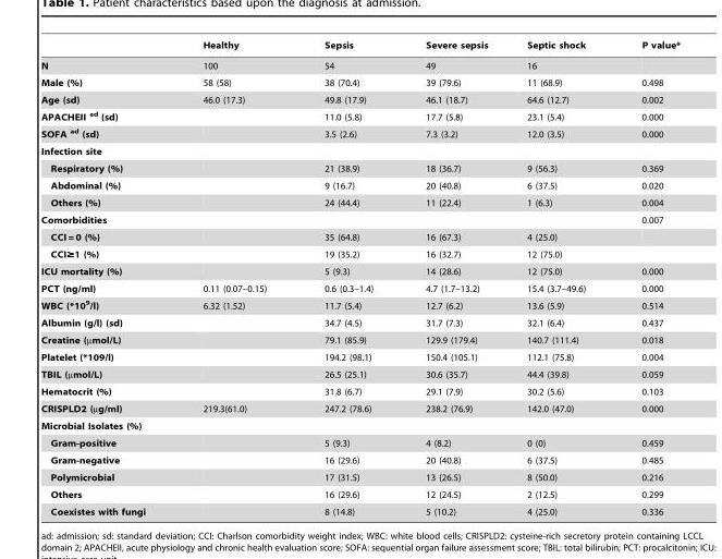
<table><thead><tr><td></td><td>Healthy</td><td>Sepsis</td><td>Severe sepsis</td><td>Septic shock</td><td>P value*</td></tr></thead><tbody><tr><td>N</td><td>100</td><td>54</td><td>49</td><td>16</td><td></td></tr><tr><td>Male (%)</td><td>58 (58)</td><td>38 (70.4)</td><td>39 (79.6)</td><td>11 (68.9)</td><td>0.498</td></tr><tr><td>Age (sd)</td><td>46.0 (17.3)</td><td>49.8 (17.9)</td><td>46.1 (18.7)</td><td>64.6 (12.7)</td><td>0.002</td></tr><tr><td>APACHEII <sup>ad</sup> (sd)</td><td></td><td>11.0 (5.8)</td><td>17.7 (5.8)</td><td>23.1 (5.4)</td><td>0.000</td></tr><tr><td>SOFA <sup>ad</sup> (sd)</td><td></td><td>3.5 (2.6)</td><td>7.3 (3.2)</td><td>12.0 (3.5)</td><td>0.000</td></tr><tr><td colspan="6">Infection site</td></tr><tr><td>Respiratory (%)</td><td></td><td>21 (38.9)</td><td>18 (36.7)</td><td>9 (56.3)</td><td>0.369</td></tr><tr><td>Abdominal (%)</td><td></td><td>9 (16.7)</td><td>20 (40.8)</td><td>6 (37.5)</td><td>0.020</td></tr><tr><td>Others (%)</td><td></td><td>24 (44.4)</td><td>11 (22.4)</td><td>1 (6.3)</td><td>0.004</td></tr><tr><td>Comorbidities</td><td></td><td></td><td></td><td></td><td>0.007</td></tr><tr><td>CCI = 0 (%)</td><td></td><td>35 (64.8)</td><td>16 (67.3)</td><td>4 (25.0)</td><td></td></tr><tr><td>CCI≥1 (%)</td><td></td><td>19 (35.2)</td><td>16 (32.7)</td><td>12 (75.0)</td><td></td></tr><tr><td>ICU mortality (%)</td><td></td><td>5 (9.3)</td><td>14 (28.6)</td><td>12 (75.0)</td><td>0.000</td></tr><tr><td>PCT (ng/ml)</td><td>0.11 (0.07–0.15)</td><td>0.6 (0.3–1.4)</td><td>4.7 (1.7–13.2)</td><td>15.4 (3.7–49.6)</td><td>0.000</td></tr><tr><td>WBC (*10<sup>9</sup>/l)</td><td>6.32 (1.52)</td><td>11.7 (5.4)</td><td>12.7 (6.2)</td><td>13.6 (5.9)</td><td>0.514</td></tr><tr><td>Albumin (g/l) (sd)</td><td></td><td>34.7 (4.5)</td><td>31.7 (7.3)</td><td>32.1 (6.4)</td><td>0.437</td></tr><tr><td>Creatine (µmol/L)</td><td></td><td>79.1 (85.9)</td><td>129.9 (179.4)</td><td>140.7 (111.4)</td><td>0.018</td></tr><tr><td>Platelet (*109/l)</td><td></td><td>194.2 (98.1)</td><td>150.4 (105.1)</td><td>112.1 (75.8)</td><td>0.004</td></tr><tr><td>TBIL (µmol/L)</td><td></td><td>26.5 (25.1)</td><td>30.6 (35.7)</td><td>44.4 (39.8)</td><td>0.059</td></tr><tr><td>Hematocrit (%)</td><td></td><td>31.8 (6.7)</td><td>29.1 (7.9)</td><td>30.2 (5.6)</td><td>0.103</td></tr><tr><td>CRISPLD2 (µg/ml)</td><td>219.3(61.0)</td><td>247.2 (78.6)</td><td>238.2 (76.9)</td><td>142.0 (47.0)</td><td>0.000</td></tr><tr><td colspan="6">Microbial Isolates (%)</td></tr><tr><td>Gram-positive</td><td></td><td>5 (9.3)</td><td>4 (8.2)</td><td>0 (0)</td><td>0.459</td></tr><tr><td>Gram-negative</td><td></td><td>16 (29.6)</td><td>20 (40.8)</td><td>6 (37.5)</td><td>0.485</td></tr><tr><td>Polymicrobial</td><td></td><td>17 (31.5)</td><td>13 (26.5)</td><td>8 (50.0)</td><td>0.216</td></tr><tr><td>Others</td><td></td><td>16 (29.6)</td><td>12 (24.5)</td><td>2 (12.5)</td><td>0.299</td></tr><tr><td>Coexistes with fungi</td><td></td><td>8 (14.8)</td><td>5 (10.2)</td><td>4 (25.0)</td><td>0.336</td></tr></tbody></table>